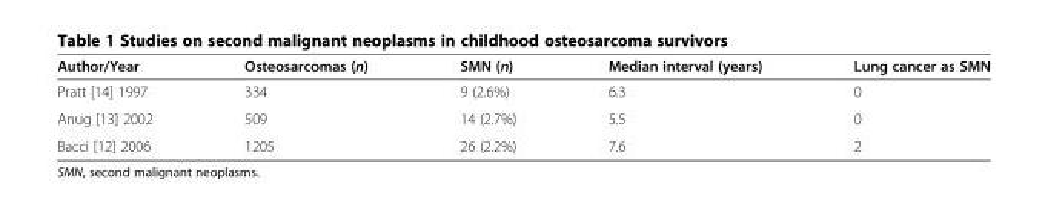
<table><thead><tr><td>Author/Year</td><td>Osteosarcomas (n)</td><td>SMN (n)</td><td>Median interval (years)</td><td>Lung cancer as SMN</td></tr></thead><tbody><tr><td>Pratt [14] 1997</td><td>334</td><td>9 (2.6%)</td><td>6.3</td><td>0</td></tr><tr><td>Anug [13] 2002</td><td>509</td><td>14 (2.7%)</td><td>5.5</td><td>0</td></tr><tr><td>Bacci [12] 2006</td><td>1205</td><td>26 (2.2%)</td><td>7.6</td><td>2</td></tr></tbody></table>